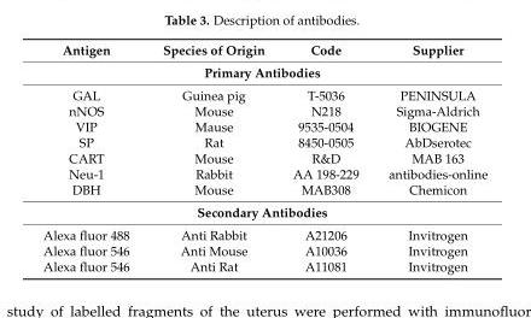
<table><thead><tr><td>Antigen</td><td>Species of Origin</td><td>Code</td><td>Supplier</td></tr></thead><tbody><tr><td colspan="4">Primary Antibodies</td></tr><tr><td>GAL</td><td>Guinea pig</td><td>T-5036</td><td>PENINSULA</td></tr><tr><td>nNOS</td><td>Mouse</td><td>N218</td><td>Sigma-Aldrich</td></tr><tr><td>VIP</td><td>Mause</td><td>9535-0504</td><td>BIOGENE</td></tr><tr><td>SP</td><td>Rat</td><td>8450-0505</td><td>AbDserotec</td></tr><tr><td>CART</td><td>Mouse</td><td>R&amp;D</td><td>MAB 163</td></tr><tr><td>Neu-1</td><td>Rabbit</td><td>AA 198-229</td><td>antibodies-online</td></tr><tr><td>DBH</td><td>Mouse</td><td>MAB308</td><td>Chemicon</td></tr><tr><td colspan="4">Secondary Antibodies</td></tr><tr><td>Alexa fluor 488</td><td>Anti Rabbit</td><td>A21206</td><td>Invitrogen</td></tr><tr><td>Alexa fluor 546</td><td>Anti Mouse</td><td>A10036</td><td>Invitrogen</td></tr><tr><td>Alexa fluor 546</td><td>Anti Rat</td><td>A11081</td><td>Invitrogen</td></tr></tbody></table>